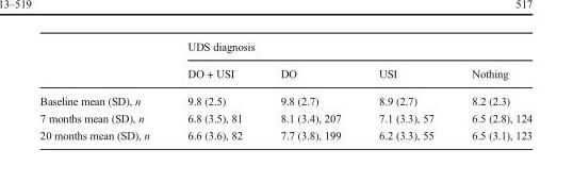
<table><thead><tr><td rowspan="2"></td><td colspan="4">UDS diagnosis</td></tr><tr><td>DO + USI</td><td>DO</td><td>USI</td><td>Nothing</td></tr></thead><tbody><tr><td>Baseline mean (SD), n</td><td>9.8 (2.5)</td><td>9.8 (2.7)</td><td>8.9 (2.7)</td><td>8.2 (2.3)</td></tr><tr><td>7 months mean (SD), n</td><td>6.8 (3.5), 81</td><td>8.1 (3.4), 207</td><td>7.1 (3.3), 57</td><td>6.5 (2.8), 124</td></tr><tr><td>20 months mean (SD), n</td><td>6.6 (3.6), 82</td><td>7.7 (3.8), 199</td><td>6.2 (3.3), 55</td><td>6.5 (3.1), 123</td></tr></tbody></table>